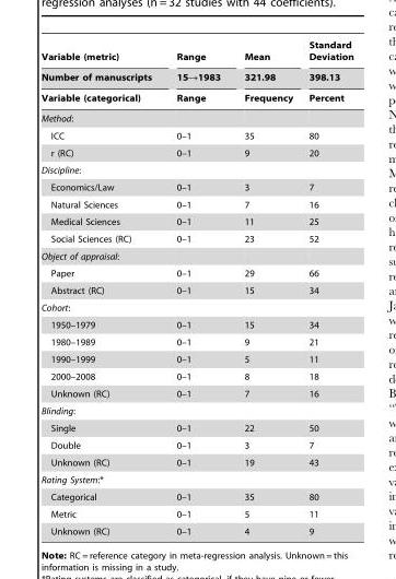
<table><thead><tr><td rowspan="3">Variable (metric) Number of manuscripts Variable (categorical)</td><td rowspan="3">Range 15→1983 Range</td><td rowspan="3">Mean 321.98 Frequency</td><td rowspan="3">Standard Deviation 398.13 Percent</td></tr><tr></tr><tr></tr></thead><tbody><tr><td colspan="4">Method:</td></tr><tr><td>ICC</td><td>0–1</td><td>35</td><td>80</td></tr><tr><td>r (RC)</td><td>0–1</td><td>9</td><td>20</td></tr><tr><td colspan="4">Discipline:</td></tr><tr><td>Economics/Law</td><td>0–1</td><td>3</td><td>7</td></tr><tr><td>Natural Sciences</td><td>0–1</td><td>7</td><td>16</td></tr><tr><td>Medical Sciences</td><td>0–1</td><td>11</td><td>25</td></tr><tr><td>Social Sciences (RC)</td><td>0–1</td><td>23</td><td>52</td></tr><tr><td colspan="4">Object of appraisal:</td></tr><tr><td>Paper</td><td>0–1</td><td>29</td><td>66</td></tr><tr><td>Abstract (RC)</td><td>0–1</td><td>15</td><td>34</td></tr><tr><td colspan="4">Cohort:</td></tr><tr><td>1950–1979</td><td>0–1</td><td>15</td><td>34</td></tr><tr><td>1980–1989</td><td>0–1</td><td>9</td><td>21</td></tr><tr><td>1990–1999</td><td>0–1</td><td>5</td><td>11</td></tr><tr><td>2000–2008</td><td>0–1</td><td>8</td><td>18</td></tr><tr><td>Unknown (RC)</td><td>0–1</td><td>7</td><td>16</td></tr><tr><td colspan="4">Blinding:</td></tr><tr><td>Single</td><td>0–1</td><td>22</td><td>50</td></tr><tr><td>Double</td><td>0–1</td><td>3</td><td>7</td></tr><tr><td>Unknown (RC)</td><td>0–1</td><td>19</td><td>43</td></tr><tr><td colspan="4">Rating System:*</td></tr><tr><td>Categorical</td><td>0–1</td><td>35</td><td>80</td></tr><tr><td>Metric</td><td>0–1</td><td>5</td><td>11</td></tr><tr><td>Unknown (RC)</td><td>0–1</td><td>4</td><td>9</td></tr></tbody></table>